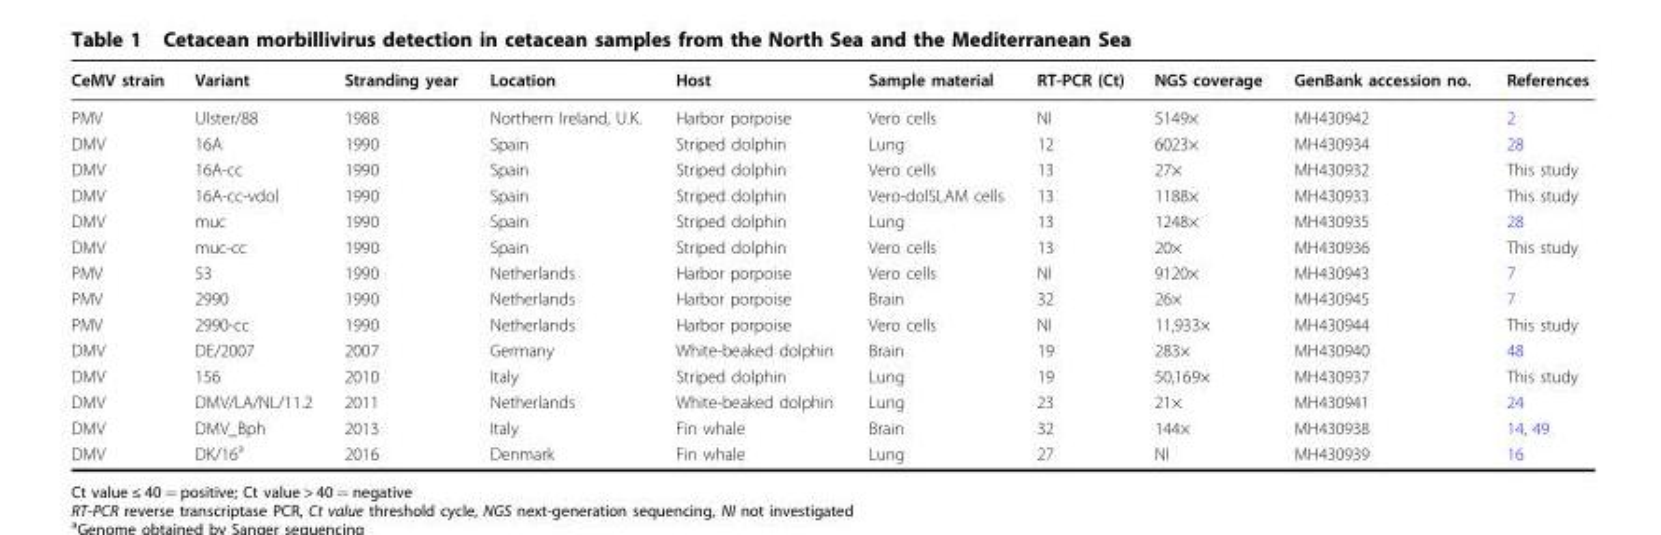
<table><thead><tr><td>CeMV strain</td><td>Variant</td><td>Stranding year</td><td>Location</td><td>Host</td><td>Sample material</td><td>RT-PCR (Ct)</td><td>NGS coverage</td><td>GenBank accession no.</td><td>References</td></tr></thead><tbody><tr><td>PMV</td><td>Ulster/88</td><td>1988</td><td>Northern Ireland, U.K.</td><td>Harbor porpoise</td><td>Vero cells</td><td>NI</td><td>5149×</td><td>MH430942</td><td>2</td></tr><tr><td>DMV</td><td>16A</td><td>1990</td><td>Spain</td><td>Striped dolphin</td><td>Lung</td><td>12</td><td>6023×</td><td>MH430934</td><td>28</td></tr><tr><td>DMV</td><td>16A-cc</td><td>1990</td><td>Spain</td><td>Striped dolphin</td><td>Vero cells</td><td>13</td><td>27×</td><td>MH430932</td><td>This study</td></tr><tr><td>DMV</td><td>16A-cc-vdol</td><td>1990</td><td>Spain</td><td>Striped dolphin</td><td>Vero-dolSLAM cells</td><td>13</td><td>1188×</td><td>MH430933</td><td>This study</td></tr><tr><td>DMV</td><td>muc</td><td>1990</td><td>Spain</td><td>Striped dolphin</td><td>Lung</td><td>13</td><td>1248×</td><td>MH430935</td><td>28</td></tr><tr><td>DMV</td><td>muc-cc</td><td>1990</td><td>Spain</td><td>Striped dolphin</td><td>Vero cells</td><td>13</td><td>20×</td><td>MH430936</td><td>This study</td></tr><tr><td>PMV</td><td>53</td><td>1990</td><td>Netherlands</td><td>Harbor porpoise</td><td>Vero cells</td><td>NI</td><td>9120×</td><td>MH430943</td><td>7</td></tr><tr><td>PMV</td><td>2990</td><td>1990</td><td>Netherlands</td><td>Harbor porpoise</td><td>Brain</td><td>32</td><td>26×</td><td>MH430945</td><td>7</td></tr><tr><td>PMV</td><td>2990-cc</td><td>1990</td><td>Netherlands</td><td>Harbor porpoise</td><td>Vero cells</td><td>NI</td><td>11,933×</td><td>MH430944</td><td>This study</td></tr><tr><td>DMV</td><td>DE/2007</td><td>2007</td><td>Germany</td><td>White-beaked dolphin</td><td>Brain</td><td>19</td><td>283×</td><td>MH430940</td><td>48</td></tr><tr><td>DMV</td><td>156</td><td>2010</td><td>Italy</td><td>Striped dolphin</td><td>Lung</td><td>19</td><td>50,169×</td><td>MH430937</td><td>This study</td></tr><tr><td>DMV</td><td>DMV/LA/NL/11.2</td><td>2011</td><td>Netherlands</td><td>White-beaked dolphin</td><td>Lung</td><td>23</td><td>21×</td><td>MH430941</td><td>24</td></tr><tr><td>DMV</td><td>DMV_Bph</td><td>2013</td><td>Italy</td><td>Fin whale</td><td>Brain</td><td>32</td><td>144×</td><td>MH430938</td><td>14, 49</td></tr><tr><td>DMV</td><td>DK/16<sup>a</sup></td><td>2016</td><td>Denmark</td><td>Fin whale</td><td>Lung</td><td>27</td><td>NI</td><td>MH430939</td><td>16</td></tr></tbody></table>